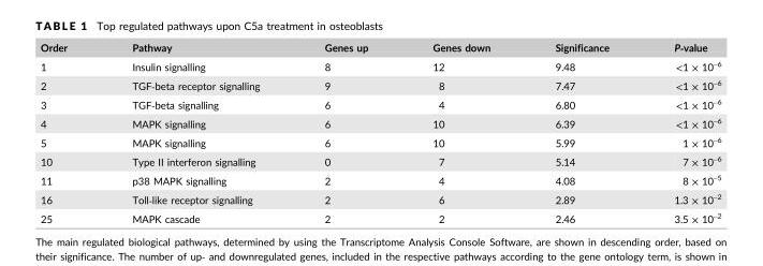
<table><thead><tr><td>Order</td><td>Pathway</td><td>Genes up</td><td>Genes down</td><td>Significance</td><td>P‐value</td></tr></thead><tbody><tr><td>1</td><td>Insulin signalling</td><td>8</td><td>12</td><td>9.48</td><td>&lt;1 × 10<sup>–6</sup></td></tr><tr><td>2</td><td>TGF‐beta receptor signalling</td><td>9</td><td>8</td><td>7.47</td><td>&lt;1 × 10<sup>–6</sup></td></tr><tr><td>3</td><td>TGF‐beta signalling</td><td>6</td><td>4</td><td>6.80</td><td>&lt;1 × 10<sup>–6</sup></td></tr><tr><td>4</td><td>MAPK signalling</td><td>6</td><td>10</td><td>6.39</td><td>&lt;1 × 10<sup>–6</sup></td></tr><tr><td>5</td><td>MAPK signalling</td><td>6</td><td>10</td><td>5.99</td><td>1 × 10<sup>–6</sup></td></tr><tr><td>10</td><td>Type II interferon signalling</td><td>0</td><td>7</td><td>5.14</td><td>7 × 10<sup>–6</sup></td></tr><tr><td>11</td><td>p38 MAPK signalling</td><td>2</td><td>4</td><td>4.08</td><td>8 × 10<sup>–5</sup></td></tr><tr><td>16</td><td>Toll‐like receptor signalling</td><td>2</td><td>6</td><td>2.89</td><td>1.3 × 10<sup>–2</sup></td></tr><tr><td>25</td><td>MAPK cascade</td><td>2</td><td>2</td><td>2.46</td><td>3.5 × 10<sup>–2</sup></td></tr></tbody></table>